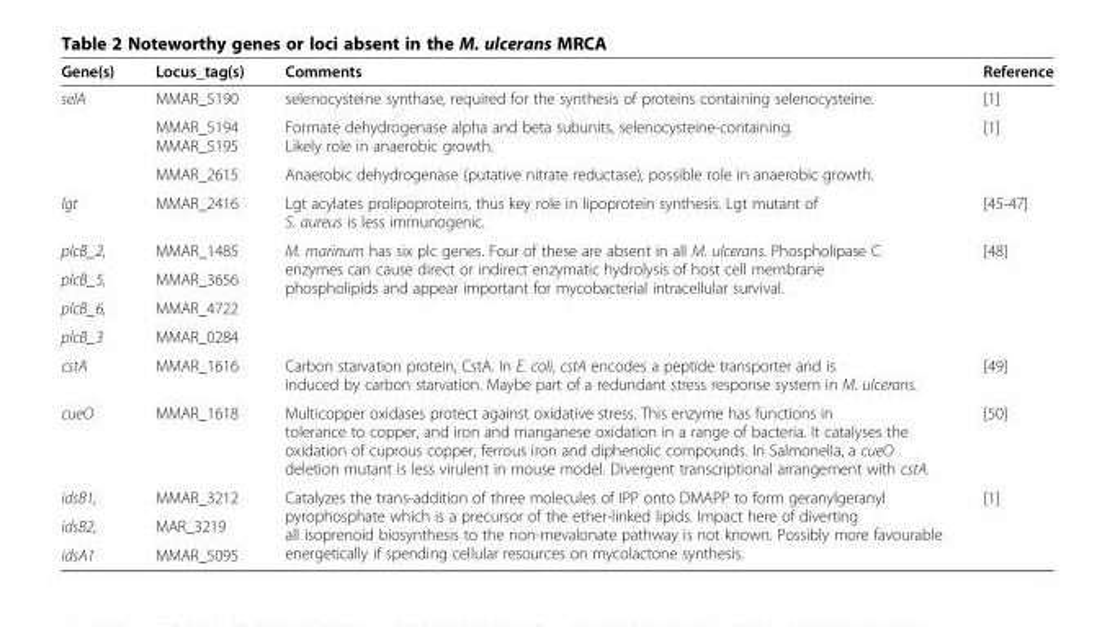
<table><thead><tr><td>Gene(s)</td><td>Locus_tag(s)</td><td>Comments</td><td>Reference</td></tr></thead><tbody><tr><td rowspan="3">selA</td><td>MMAR_5190</td><td>selenocysteine synthase, required for the synthesis of proteins containing selenocysteine.</td><td>[1]</td></tr><tr><td>MMAR_5194 MMAR_5195</td><td>Formate dehydrogenase alpha and beta subunits, selenocysteine-containing. Likely role in anaerobic growth.</td><td>[1]</td></tr><tr><td>MMAR_2615</td><td>Anaerobic dehydrogenase (putative nitrate reductase), possible role in anaerobic growth.</td><td></td></tr><tr><td>lgt</td><td>MMAR_2416</td><td>Lgt acylates prolipoproteins, thus key role in lipoprotein synthesis. Lgt mutant of S. aureus is less immunogenic.</td><td>[45-47]</td></tr><tr><td>plcB_2,</td><td>MMAR_1485</td><td rowspan="4">M. marinum has six plc genes. Four of these are absent in all M. ulcerans. Phospholipase C enzymes can cause direct or indirect enzymatic hydrolysis of host cell membrane phospholipids and appear important for mycobacterial intracellular survival.</td><td rowspan="4">[48]</td></tr><tr><td>plcB_5,</td><td>MMAR_3656</td></tr><tr><td>plcB_6,</td><td>MMAR_4722</td></tr><tr><td>plcB_3</td><td>MMAR_0284</td></tr><tr><td>cstA</td><td>MMAR_1616</td><td>Carbon starvation protein, CstA. In E. coli, cstA encodes a peptide transporter and is induced by carbon starvation. Maybe part of a redundant stress response system in M. ulcerans.</td><td>[49]</td></tr><tr><td>cueO</td><td>MMAR_1618</td><td>Multicopper oxidases protect against oxidative stress. This enzyme has functions in tolerance to copper, and iron and manganese oxidation in a range of bacteria. It catalyses the oxidation of cuprous copper, ferrous iron and diphenolic compounds. In Salmonella, a cueO deletion mutant is less virulent in mouse model. Divergent transcriptional arrangement with cstA.</td><td>[50]</td></tr><tr><td>idsB1,</td><td>MMAR_3212</td><td rowspan="3">Catalyzes the trans-addition of three molecules of IPP onto DMAPP to form geranylgeranyl pyrophosphate which is a precursor of the ether-linked lipids. Impact here of diverting all isoprenoid biosynthesis to the non-mevalonate pathway is not known. Possibly more favourable energetically if spending cellular resources on mycolactone synthesis.</td><td rowspan="3">[1]</td></tr><tr><td>idsB2,</td><td>MAR_3219</td></tr><tr><td>idsA1</td><td>MMAR_5095</td></tr></tbody></table>